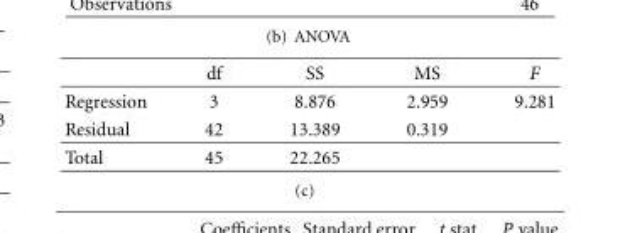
<table><thead><tr><td></td><td>df</td><td>SS</td><td>MS</td><td>F</td></tr></thead><tbody><tr><td>Regression</td><td>3</td><td>8.876</td><td>2.959</td><td>9.281</td></tr><tr><td>Residual</td><td>42</td><td>13.389</td><td>0.319</td><td></td></tr><tr><td>Total</td><td>45</td><td>22.265</td><td></td><td></td></tr></tbody></table>